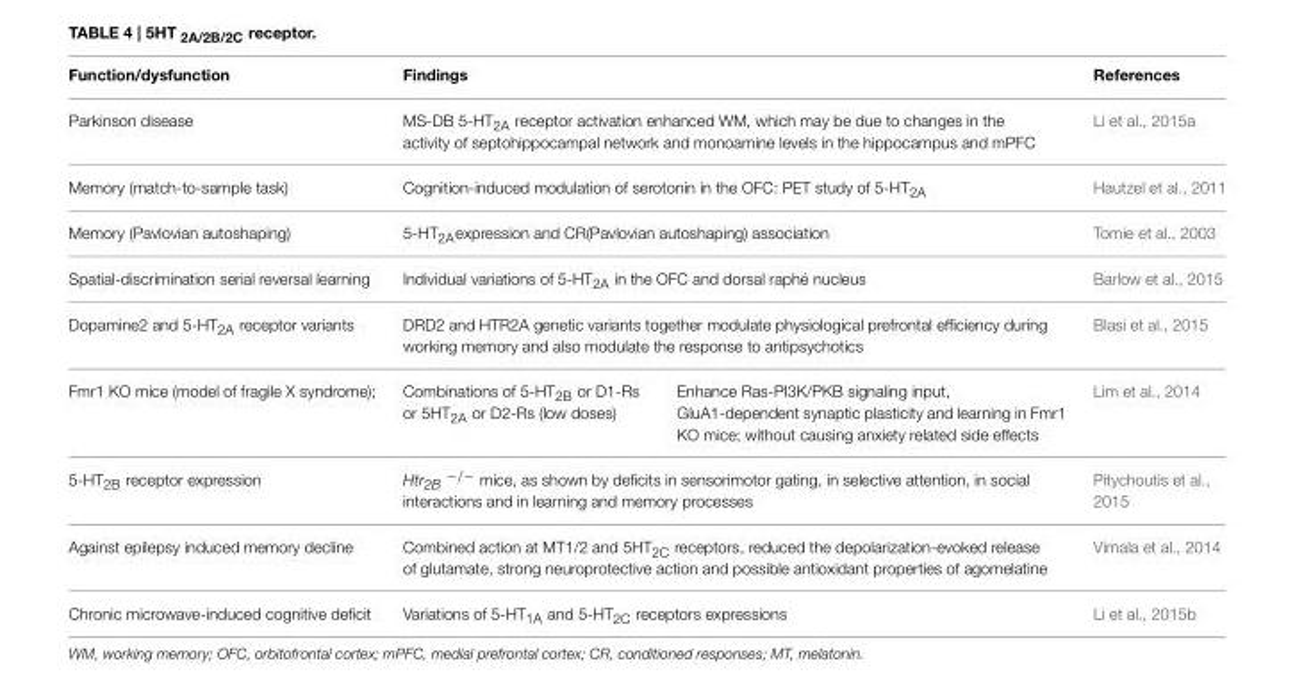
<table><thead><tr><td>Function/dysfunction</td><td colspan="2">Findings</td><td>References</td></tr></thead><tbody><tr><td>Parkinson disease</td><td colspan="2">MS-DB 5-HT<sub>2A</sub> receptor activation enhanced WM, which may be due to changes in the activity of septohippocampal network and monoamine levels in the hippocampus and mPFC</td><td>Li et al., 2015a</td></tr><tr><td>Memory (match-to-sample task)</td><td colspan="2">Cognition-induced modulation of serotonin in the OFC: PET study of 5-HT<sub>2A</sub></td><td>Hautzel et al., 2011</td></tr><tr><td>Memory (Pavlovian autoshaping)</td><td colspan="2">5-HT<sub>2A</sub>expression and CR(Pavlovian autoshaping) association</td><td>Tomie et al., 2003</td></tr><tr><td>Spatial-discrimination serial reversal learning</td><td colspan="2">Individual variations of 5-HT<sub>2A</sub> in the OFC and dorsal raphé nucleus</td><td>Barlow et al., 2015</td></tr><tr><td>Dopamine2 and 5-HT<sub>2A</sub> receptor variants</td><td colspan="2">DRD2 and HTR2A genetic variants together modulate physiological prefrontal efficiency during working memory and also modulate the response to antipsychotics</td><td>Blasi et al., 2015</td></tr><tr><td>Fmr1 KO mice (model of fragile X syndrome);</td><td>Combinations of 5-HT<sub>2B</sub> or D1-Rs or 5HT<sub>2A</sub> or D2-Rs (low doses)</td><td>Enhance Ras-PI3K/PKB signaling input, GluA1-dependent synaptic plasticity and learning in Fmr1 KO mice; without causing anxiety related side effects</td><td>Lim et al., 2014</td></tr><tr><td>5-HT<sub>2B</sub> receptor expression</td><td colspan="2">Htr<sub>2B</sub> <sup>−/−</sup> mice, as shown by deficits in sensorimotor gating, in selective attention, in social interactions and in learning and memory processes</td><td>Pitychoutis et al., 2015</td></tr><tr><td>Against epilepsy induced memory decline</td><td colspan="2">Combined action at MT1/2 and 5HT<sub>2C</sub> receptors, reduced the depolarization-evoked release of glutamate, strong neuroprotective action and possible antioxidant properties of agomelatine</td><td>Vimala et al., 2014</td></tr><tr><td>Chronic microwave-induced cognitive deficit</td><td colspan="2">Variations of 5-HT<sub>1A</sub> and 5-HT<sub>2C</sub> receptors expressions</td><td>Li et al., 2015b</td></tr></tbody></table>